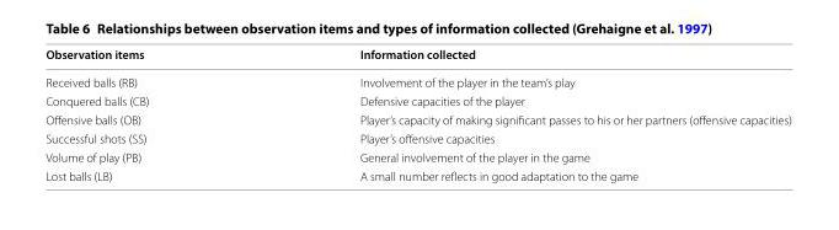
<table><thead><tr><td>Observation items</td><td>Information collected</td></tr></thead><tbody><tr><td>Received balls (RB)</td><td>Involvement of the player in the team’s play</td></tr><tr><td>Conquered balls (CB)</td><td>Defensive capacities of the player</td></tr><tr><td>Offensive balls (OB)</td><td>Player’s capacity of making significant passes to his or her partners (offensive capacities)</td></tr><tr><td>Successful shots (SS)</td><td>Player’s offensive capacities</td></tr><tr><td>Volume of play (PB)</td><td>General involvement of the player in the game</td></tr><tr><td>Lost balls (LB)</td><td>A small number reflects in good adaptation to the game</td></tr></tbody></table>